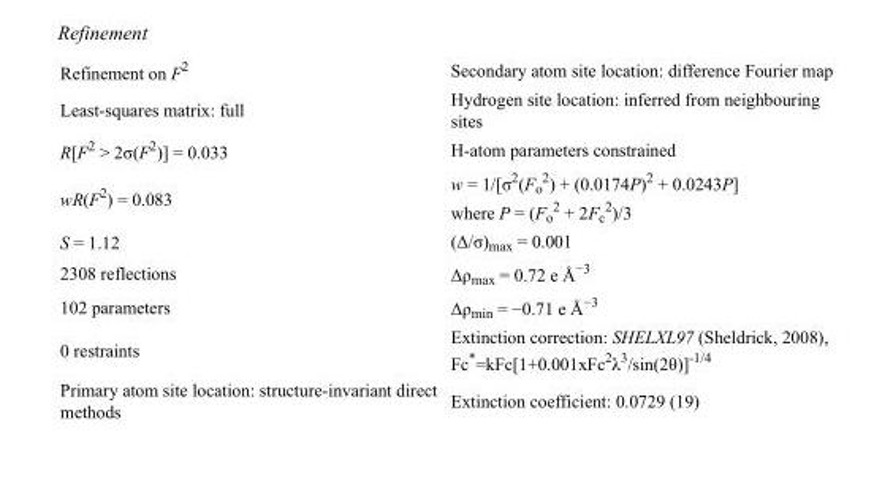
<table><tbody><tr><td>Refinement on F<sup>2</sup></td><td>Secondary atom site location: difference Fourier map</td></tr><tr><td>Least-squares matrix: full</td><td>Hydrogen site location: inferred from neighbouring sites</td></tr><tr><td>R[F<sup>2</sup> &gt; 2σ(F<sup>2</sup>)] = 0.033</td><td>H-atom parameters constrained</td></tr><tr><td>wR(F<sup>2</sup>) = 0.083</td><td>w = 1/[σ<sup>2</sup>(F<sub>o</sub> <sup>2</sup>) + (0.0174P)<sup>2</sup> + 0.0243P] where P = (F<sub>o</sub> <sup>2</sup> + 2F<sub>c</sub> <sup>2</sup>)/3</td></tr><tr><td>S = 1.12</td><td>(Δ/σ)<sub>max</sub> = 0.001</td></tr><tr><td>2308 reflections</td><td>Δρ<sub>max</sub> = 0.72 e Å<sup>−3</sup></td></tr><tr><td>102 parameters</td><td>Δρ<sub>min</sub> = −0.71 e Å<sup>−3</sup></td></tr><tr><td>0 restraints</td><td>Extinction correction: SHELXL97 (Sheldrick, 2008), Fc*=kFc[1+0.001xFc<sup>2</sup>λ<sup>3</sup>/sin(2θ)]<sup>-1/4</sup></td></tr><tr><td>Primary atom site location: structure-invariant direct methods</td><td>Extinction coefficient: 0.0729 (19)</td></tr></tbody></table>